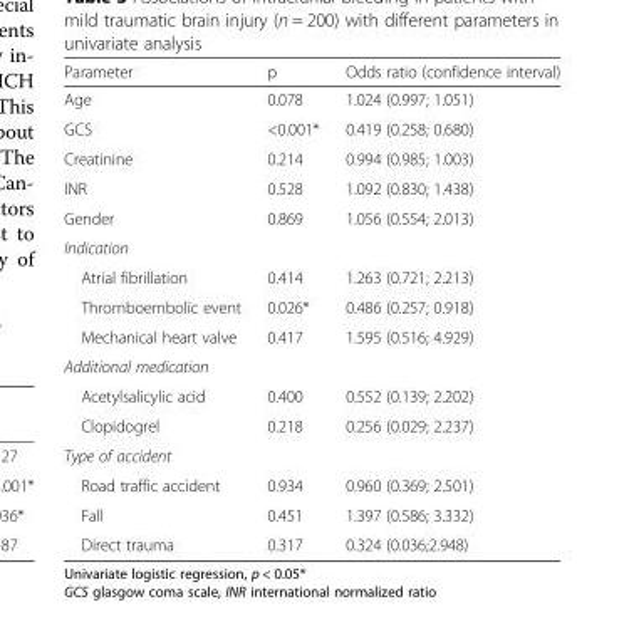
<table><thead><tr><td>Parameter</td><td>p</td><td>Odds ratio (confidence interval)</td></tr></thead><tbody><tr><td>Age</td><td>0.078</td><td>1.024 (0.997; 1.051)</td></tr><tr><td>GCS</td><td>&lt;0.001*</td><td>0.419 (0.258; 0.680)</td></tr><tr><td>Creatinine</td><td>0.214</td><td>0.994 (0.985; 1.003)</td></tr><tr><td>INR</td><td>0.528</td><td>1.092 (0.830; 1.438)</td></tr><tr><td>Gender</td><td>0.869</td><td>1.056 (0.554; 2.013)</td></tr><tr><td colspan="3">Indication</td></tr><tr><td>Atrial fibrillation</td><td>0.414</td><td>1.263 (0.721; 2.213)</td></tr><tr><td>Thromboembolic event</td><td>0.026*</td><td>0.486 (0.257; 0.918)</td></tr><tr><td>Mechanical heart valve</td><td>0.417</td><td>1.595 (0.516; 4.929)</td></tr><tr><td colspan="3">Additional medication</td></tr><tr><td>Acetylsalicylic acid</td><td>0.400</td><td>0.552 (0.139; 2.202)</td></tr><tr><td>Clopidogrel</td><td>0.218</td><td>0.256 (0.029; 2.237)</td></tr><tr><td colspan="3">Type of accident</td></tr><tr><td>Road traffic accident</td><td>0.934</td><td>0.960 (0.369; 2.501)</td></tr><tr><td>Fall</td><td>0.451</td><td>1.397 (0.586; 3.332)</td></tr><tr><td>Direct trauma</td><td>0.317</td><td>0.324 (0.036;2.948)</td></tr></tbody></table>